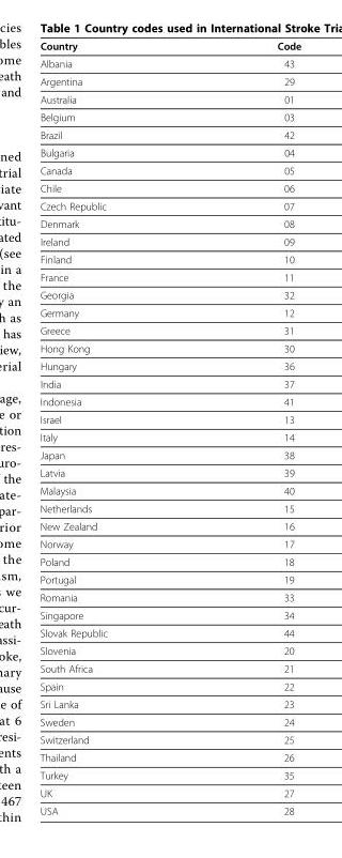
<table><thead><tr><td>Country</td><td>Code</td></tr></thead><tbody><tr><td>Albania</td><td>43</td></tr><tr><td>Argentina</td><td>29</td></tr><tr><td>Australia</td><td>01</td></tr><tr><td>Belgium</td><td>03</td></tr><tr><td>Brazil</td><td>42</td></tr><tr><td>Bulgaria</td><td>04</td></tr><tr><td>Canada</td><td>05</td></tr><tr><td>Chile</td><td>06</td></tr><tr><td>Czech Republic</td><td>07</td></tr><tr><td>Denmark</td><td>08</td></tr><tr><td>Ireland</td><td>09</td></tr><tr><td>Finland</td><td>10</td></tr><tr><td>France</td><td>11</td></tr><tr><td>Georgia</td><td>32</td></tr><tr><td>Germany</td><td>12</td></tr><tr><td>Greece</td><td>31</td></tr><tr><td>Hong Kong</td><td>30</td></tr><tr><td>Hungary</td><td>36</td></tr><tr><td>India</td><td>37</td></tr><tr><td>Indonesia</td><td>41</td></tr><tr><td>Israel</td><td>13</td></tr><tr><td>Italy</td><td>14</td></tr><tr><td>Japan</td><td>38</td></tr><tr><td>Latvia</td><td>39</td></tr><tr><td>Malaysia</td><td>40</td></tr><tr><td>Netherlands</td><td>15</td></tr><tr><td>New Zealand</td><td>16</td></tr><tr><td>Norway</td><td>17</td></tr><tr><td>Poland</td><td>18</td></tr><tr><td>Portugal</td><td>19</td></tr><tr><td>Romania</td><td>33</td></tr><tr><td>Singapore</td><td>34</td></tr><tr><td>Slovak Republic</td><td>44</td></tr><tr><td>Slovenia</td><td>20</td></tr><tr><td>South Africa</td><td>21</td></tr><tr><td>Spain</td><td>22</td></tr><tr><td>Sri Lanka</td><td>23</td></tr><tr><td>Sweden</td><td>24</td></tr><tr><td>Switzerland</td><td>25</td></tr><tr><td>Thailand</td><td>26</td></tr><tr><td>Turkey</td><td>35</td></tr><tr><td>UK</td><td>27</td></tr><tr><td>USA</td><td>28</td></tr></tbody></table>